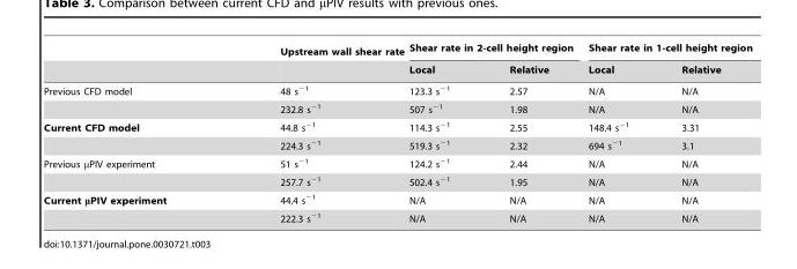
<table><thead><tr><td rowspan="2"></td><td rowspan="2">Upstream wall shear rate</td><td colspan="2">Shear rate in 2-cell height region</td><td colspan="2">Shear rate in 1-cell height region</td></tr><tr><td>Local</td><td>Relative</td><td>Local</td><td>Relative</td></tr></thead><tbody><tr><td rowspan="2">Previous CFD model</td><td>48 s<sup>−1</sup></td><td>123.3 s<sup>−1</sup></td><td>2.57</td><td>N/A</td><td>N/A</td></tr><tr><td>232.8 s<sup>−1</sup></td><td>507 s<sup>−1</sup></td><td>1.98</td><td>N/A</td><td>N/A</td></tr><tr><td rowspan="2">Current CFD model</td><td>44.8 s<sup>−1</sup></td><td>114.3 s<sup>−1</sup></td><td>2.55</td><td>148.4 s<sup>−1</sup></td><td>3.31</td></tr><tr><td>224.3 s<sup>−1</sup></td><td>519.3 s<sup>−1</sup></td><td>2.32</td><td>694 s<sup>−1</sup></td><td>3.1</td></tr><tr><td rowspan="2">Previous μPIV experiment</td><td>51 s<sup>−1</sup></td><td>124.2 s<sup>−1</sup></td><td>2.44</td><td>N/A</td><td>N/A</td></tr><tr><td>257.7 s<sup>−1</sup></td><td>502.4 s<sup>−1</sup></td><td>1.95</td><td>N/A</td><td>N/A</td></tr><tr><td rowspan="2">Current μPIV experiment</td><td>44.4 s<sup>−1</sup></td><td>N/A</td><td>N/A</td><td>N/A</td><td>N/A</td></tr><tr><td>222.3 s<sup>−1</sup></td><td>N/A</td><td>N/A</td><td>N/A</td><td>N/A</td></tr></tbody></table>